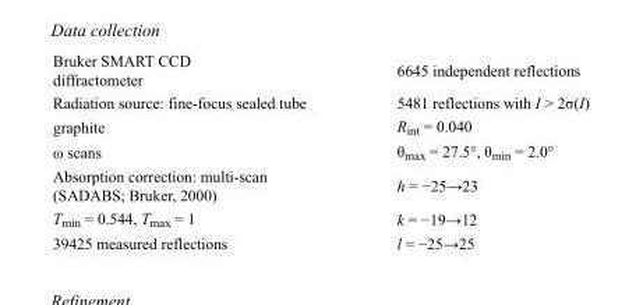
<table><tbody><tr><td>Bruker SMART CCD diffractometer</td><td>6645 independent reflections</td></tr><tr><td>Radiation source: fine-focus sealed tube</td><td>5481 reflections with I &gt; 2σ(I)</td></tr><tr><td>graphite</td><td>R<sub>int</sub> = 0.040</td></tr><tr><td>ω scans</td><td>θ<sub>max</sub> = 27.5°, θ<sub>min</sub> = 2.0°</td></tr><tr><td>Absorption correction: multi-scan (SADABS; Bruker, 2000)</td><td>h = −25→23</td></tr><tr><td>T<sub>min</sub> = 0.544, T<sub>max</sub> = 1</td><td>k = −19→12</td></tr><tr><td>39425 measured reflections</td><td>l = −25→25</td></tr></tbody></table>